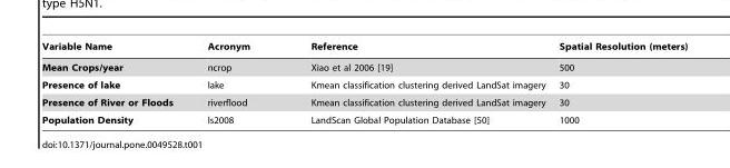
<table><thead><tr><td>Variable Name</td><td>Acronym</td><td>Reference</td><td>Spatial Resolution (meters)</td></tr></thead><tbody><tr><td>Mean Crops/year</td><td>ncrop</td><td>Xiao et al 2006 [19]</td><td>500</td></tr><tr><td>Presence of lake</td><td>lake</td><td>Kmean classification clustering derived LandSat imagery</td><td>30</td></tr><tr><td>Presence of River or Floods</td><td>riverflood</td><td>Kmean classification clustering derived LandSat imagery</td><td>30</td></tr><tr><td>Population Density</td><td>ls2008</td><td>LandScan Global Population Database [50]</td><td>1000</td></tr></tbody></table>